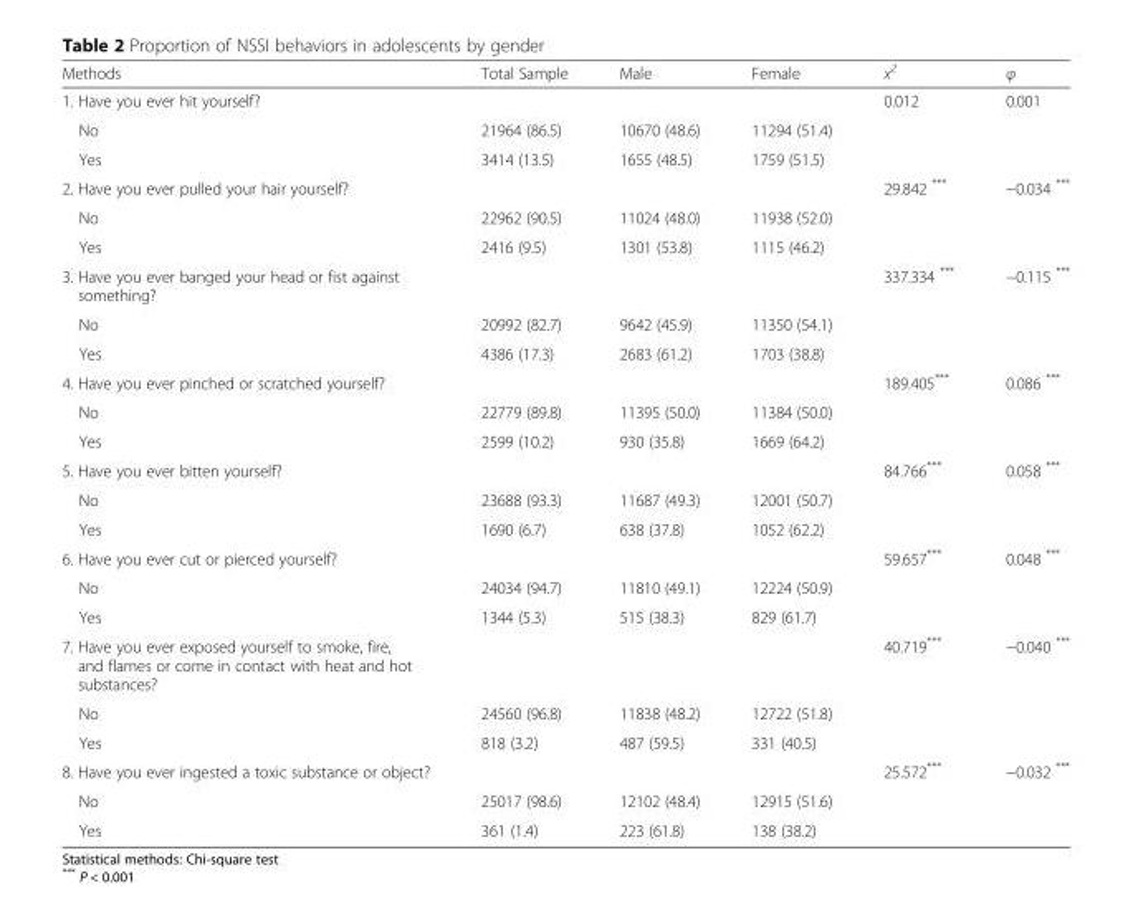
<table><thead><tr><td>Methods</td><td>Total Sample</td><td>Male</td><td>Female</td><td>x<sup>2</sup></td><td>φ</td></tr></thead><tbody><tr><td>1. Have you ever hit yourself?</td><td></td><td></td><td></td><td>0.012</td><td>0.001</td></tr><tr><td>No</td><td>21964 (86.5)</td><td>10670 (48.6)</td><td>11294 (51.4)</td><td></td><td></td></tr><tr><td>Yes</td><td>3414 (13.5)</td><td>1655 (48.5)</td><td>1759 (51.5)</td><td></td><td></td></tr><tr><td>2. Have you ever pulled your hair yourself?</td><td></td><td></td><td></td><td>29.842 ***</td><td>−0.034 ***</td></tr><tr><td>No</td><td>22962 (90.5)</td><td>11024 (48.0)</td><td>11938 (52.0)</td><td></td><td></td></tr><tr><td>Yes</td><td>2416 (9.5)</td><td>1301 (53.8)</td><td>1115 (46.2)</td><td></td><td></td></tr><tr><td>3. Have you ever banged your head or fist against something?</td><td colspan="2"></td><td></td><td>337.334 ***</td><td>−0.115 ***</td></tr><tr><td>No</td><td>20992 (82.7)</td><td>9642 (45.9)</td><td>11350 (54.1)</td><td></td><td></td></tr><tr><td>Yes</td><td>4386 (17.3)</td><td>2683 (61.2)</td><td>1703 (38.8)</td><td></td><td></td></tr><tr><td>4. Have you ever pinched or scratched yourself?</td><td></td><td></td><td></td><td>189.405***</td><td>0.086 ***</td></tr><tr><td>No</td><td>22779 (89.8)</td><td>11395 (50.0)</td><td>11384 (50.0)</td><td></td><td></td></tr><tr><td>Yes</td><td>2599 (10.2)</td><td>930 (35.8)</td><td>1669 (64.2)</td><td></td><td></td></tr><tr><td>5. Have you ever bitten yourself?</td><td></td><td></td><td></td><td>84.766***</td><td>0.058 ***</td></tr><tr><td>No</td><td>23688 (93.3)</td><td>11687 (49.3)</td><td>12001 (50.7)</td><td></td><td></td></tr><tr><td>Yes</td><td>1690 (6.7)</td><td>638 (37.8)</td><td>1052 (62.2)</td><td></td><td></td></tr><tr><td>6. Have you ever cut or pierced yourself?</td><td></td><td></td><td></td><td>59.657***</td><td>0.048 ***</td></tr><tr><td>No</td><td>24034 (94.7)</td><td>11810 (49.1)</td><td>12224 (50.9)</td><td></td><td></td></tr><tr><td>Yes</td><td>1344 (5.3)</td><td>515 (38.3)</td><td>829 (61.7)</td><td></td><td></td></tr><tr><td>7. Have you ever exposed yourself to smoke, fire, and flames or come in contact with heat and hot substances?</td><td></td><td></td><td></td><td>40.719***</td><td>−0.040 ***</td></tr><tr><td>No</td><td>24560 (96.8)</td><td>11838 (48.2)</td><td>12722 (51.8)</td><td></td><td></td></tr><tr><td>Yes</td><td>818 (3.2)</td><td>487 (59.5)</td><td>331 (40.5)</td><td></td><td></td></tr><tr><td>8. Have you ever ingested a toxic substance or object?</td><td></td><td></td><td></td><td>25.572***</td><td>−0.032 ***</td></tr><tr><td>No</td><td>25017 (98.6)</td><td>12102 (48.4)</td><td>12915 (51.6)</td><td></td><td></td></tr><tr><td>Yes</td><td>361 (1.4)</td><td>223 (61.8)</td><td>138 (38.2)</td><td></td><td></td></tr></tbody></table>